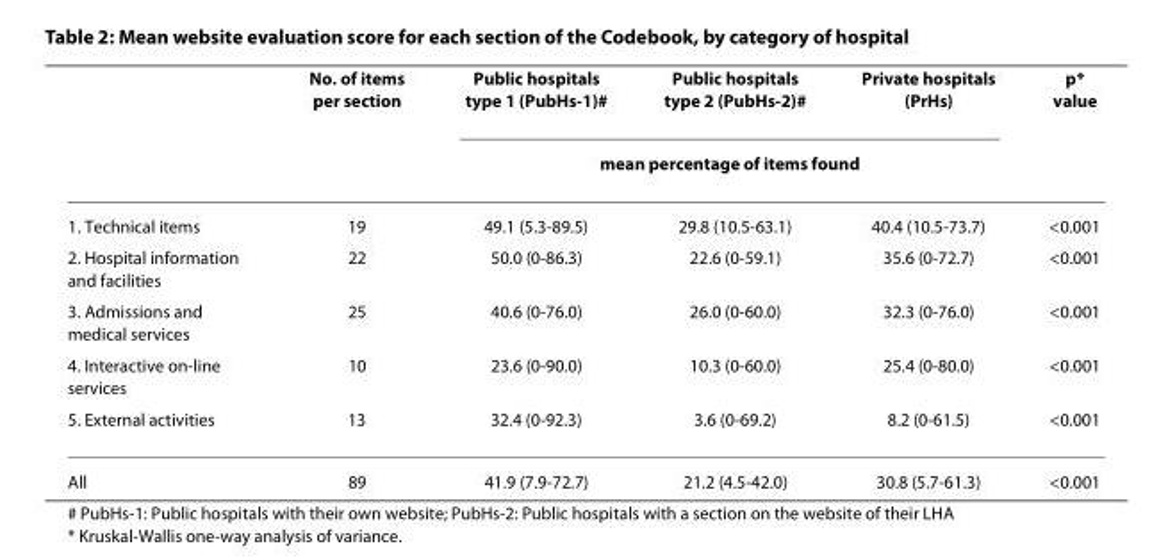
<table><thead><tr><td rowspan="2"></td><td rowspan="2">No. of items per section</td><td>Public hospitals type 1 (PubHs-1)#</td><td>Public hospitals type 2 (PubHs-2)#</td><td>Private hospitals (PrHs)</td><td rowspan="2">p* value</td></tr><tr><td colspan="3">mean percentage of items found</td></tr></thead><tbody><tr><td>1. Technical items</td><td>19</td><td>49.1 (5.3-89.5)</td><td>29.8 (10.5-63.1)</td><td>40.4 (10.5-73.7)</td><td>&lt;0.001</td></tr><tr><td>2. Hospital information and facilities</td><td>22</td><td>50.0 (0-86.3)</td><td>22.6 (0-59.1)</td><td>35.6 (0-72.7)</td><td>&lt;0.001</td></tr><tr><td>3. Admissions and medical services</td><td>25</td><td>40.6 (0-76.0)</td><td>26.0 (0-60.0)</td><td>32.3 (0-76.0)</td><td>&lt;0.001</td></tr><tr><td>4. Interactive on-line services</td><td>10</td><td>23.6 (0-90.0)</td><td>10.3 (0-60.0)</td><td>25.4 (0-80.0)</td><td>&lt;0.001</td></tr><tr><td>5. External activities</td><td>13</td><td>32.4 (0-92.3)</td><td>3.6 (0-69.2)</td><td>8.2 (0-61.5)</td><td>&lt;0.001</td></tr><tr><td>All</td><td>89</td><td>41.9 (7.9-72.7)</td><td>21.2 (4.5-42.0)</td><td>30.8 (5.7-61.3)</td><td>&lt;0.001</td></tr></tbody></table>